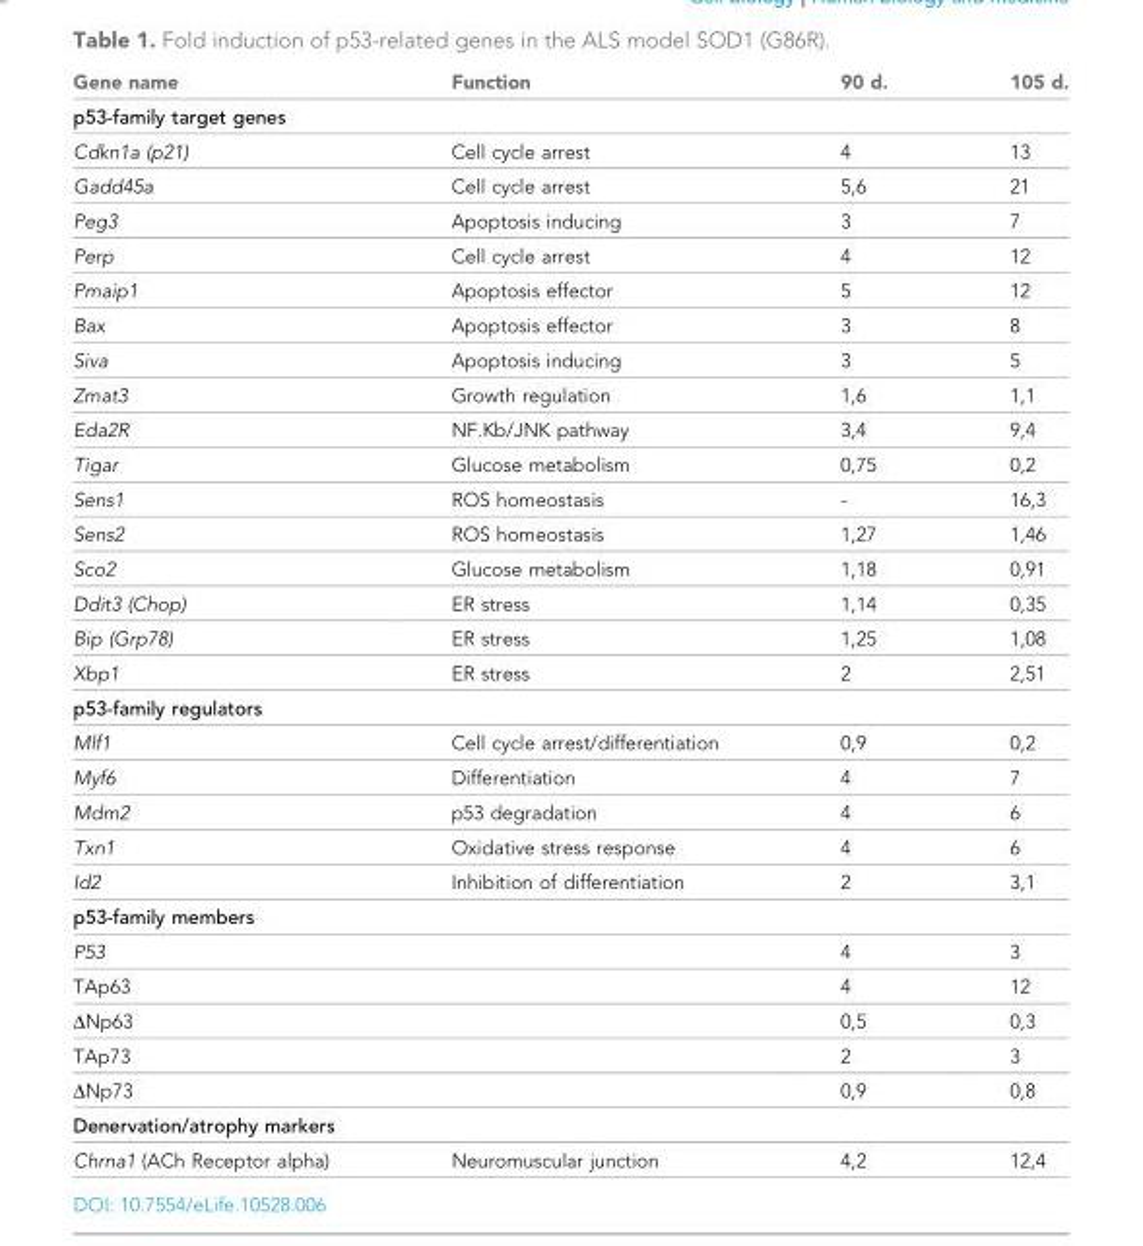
<table><thead><tr><td>Gene name</td><td>Function</td><td>90 d.</td><td>105 d.</td></tr></thead><tbody><tr><td colspan="4">p53-family target genes</td></tr><tr><td>Cdkn1a (p21)</td><td>Cell cycle arrest</td><td>4</td><td>13</td></tr><tr><td>Gadd45a</td><td>Cell cycle arrest</td><td>5,6</td><td>21</td></tr><tr><td>Peg3</td><td>Apoptosis inducing</td><td>3</td><td>7</td></tr><tr><td>Perp</td><td>Cell cycle arrest</td><td>4</td><td>12</td></tr><tr><td>Pmaip1</td><td>Apoptosis effector</td><td>5</td><td>12</td></tr><tr><td>Bax</td><td>Apoptosis effector</td><td>3</td><td>8</td></tr><tr><td>Siva</td><td>Apoptosis inducing</td><td>3</td><td>5</td></tr><tr><td>Zmat3</td><td>Growth regulation</td><td>1,6</td><td>1,1</td></tr><tr><td>Eda2R</td><td>NF.Kb/JNK pathway</td><td>3,4</td><td>9,4</td></tr><tr><td>Tigar</td><td>Glucose metabolism</td><td>0,75</td><td>0,2</td></tr><tr><td>Sens1</td><td>ROS homeostasis</td><td>-</td><td>16,3</td></tr><tr><td>Sens2</td><td>ROS homeostasis</td><td>1,27</td><td>1,46</td></tr><tr><td>Sco2</td><td>Glucose metabolism</td><td>1,18</td><td>0,91</td></tr><tr><td>Ddit3 (Chop)</td><td>ER stress</td><td>1,14</td><td>0,35</td></tr><tr><td>Bip (Grp78)</td><td>ER stress</td><td>1,25</td><td>1,08</td></tr><tr><td>Xbp1</td><td>ER stress</td><td>2</td><td>2,51</td></tr><tr><td colspan="4">p53-family regulators</td></tr><tr><td>Mlf1</td><td>Cell cycle arrest/differentiation</td><td>0,9</td><td>0,2</td></tr><tr><td>Myf6</td><td>Differentiation</td><td>4</td><td>7</td></tr><tr><td>Mdm2</td><td>p53 degradation</td><td>4</td><td>6</td></tr><tr><td>Txn1</td><td>Oxidative stress response</td><td>4</td><td>6</td></tr><tr><td>Id2</td><td>Inhibition of differentiation</td><td>2</td><td>3,1</td></tr><tr><td colspan="4">p53-family members</td></tr><tr><td>P53</td><td></td><td>4</td><td>3</td></tr><tr><td>TAp63</td><td></td><td>4</td><td>12</td></tr><tr><td>∆Np63</td><td></td><td>0,5</td><td>0,3</td></tr><tr><td>TAp73</td><td></td><td>2</td><td>3</td></tr><tr><td>∆Np73</td><td></td><td>0,9</td><td>0,8</td></tr><tr><td colspan="4">Denervation/atrophy markers</td></tr><tr><td>Chrna1 (ACh Receptor alpha)</td><td>Neuromuscular junction</td><td>4,2</td><td>12,4</td></tr></tbody></table>